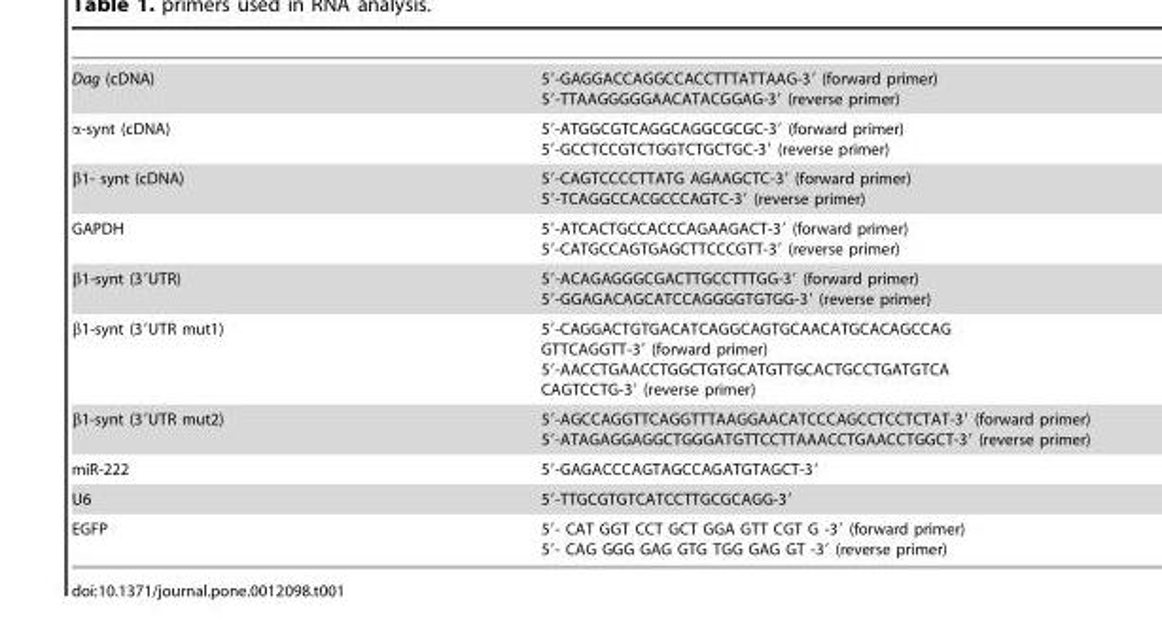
<table><tbody><tr><td>Dag (cDNA)</td><td>5′-GAGGACCAGGCCACCTTTATTAAG-3′ (forward primer) 5′-TTAAGGGGGAACATACGGAG-3′ (reverse primer)</td></tr><tr><td>α-synt (cDNA)</td><td>5′-ATGGCGTCAGGCAGGCGCGC-3′ (forward primer) 5′-GCCTCCGTCTGGTCTGCTGC-3′ (reverse primer)</td></tr><tr><td>β1- synt (cDNA)</td><td>5′-CAGTCCCCTTATG AGAAGCTC-3′ (forward primer) 5′-TCAGGCCACGCCCAGTC-3′ (reverse primer)</td></tr><tr><td>GAPDH</td><td>5′-ATCACTGCCACCCAGAAGACT-3′ (forward primer) 5′-CATGCCAGTGAGCTTCCCGTT-3′ (reverse primer)</td></tr><tr><td>β1-synt (3′UTR)</td><td>5′-ACAGAGGGCGACTTGCCTTTGG-3′ (forward primer) 5′-GGAGACAGCATCCAGGGGTGTGG-3′ (reverse primer)</td></tr><tr><td>β1-synt (3′UTR mut1)</td><td>5′-CAGGACTGTGACATCAGGCAGTGCAACATGCACAGCCAG GTTCAGGTT-3′ (forward primer) 5′-AACCTGAACCTGGCTGTGCATGTTGCACTGCCTGATGTCA CAGTCCTG-3′ (reverse primer)</td></tr><tr><td>β1-synt (3′UTR mut2)</td><td>5′-AGCCAGGTTCAGGTTTAAGGAACATCCCAGCCTCCTCTAT-3′ (forward primer) 5′-ATAGAGGAGGCTGGGATGTTCCTTAAACCTGAACCTGGCT-3′ (reverse primer)</td></tr><tr><td>miR-222</td><td>5′-GAGACCCAGTAGCCAGATGTAGCT-3′</td></tr><tr><td>U6</td><td>5′-TTGCGTGTCATCCTTGCGCAGG-3′</td></tr><tr><td>EGFP</td><td>5′- CAT GGT CCT GCT GGA GTT CGT G -3′ (forward primer) 5′- CAG GGG GAG GTG TGG GAG GT -3′ (reverse primer)</td></tr></tbody></table>